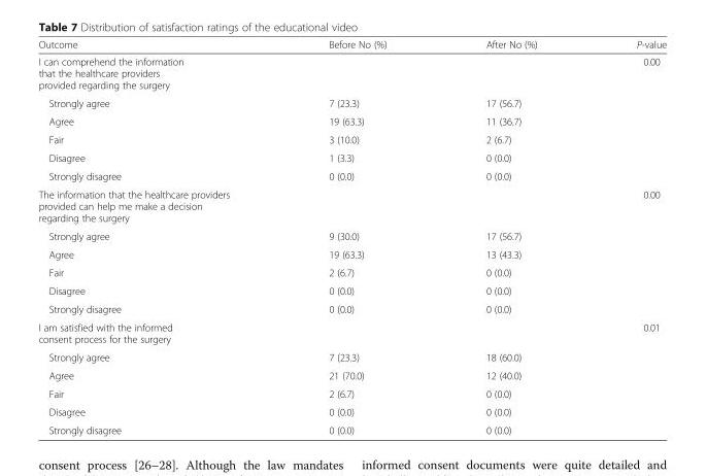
<table><thead><tr><td>Outcome</td><td>Before No (%)</td><td>After No (%)</td><td>P-value</td></tr></thead><tbody><tr><td>I can comprehend the information that the healthcare providers provided regarding the surgery</td><td></td><td></td><td>0.00</td></tr><tr><td>Strongly agree</td><td>7 (23.3)</td><td>17 (56.7)</td><td></td></tr><tr><td>Agree</td><td>19 (63.3)</td><td>11 (36.7)</td><td></td></tr><tr><td>Fair</td><td>3 (10.0)</td><td>2 (6.7)</td><td></td></tr><tr><td>Disagree</td><td>1 (3.3)</td><td>0 (0.0)</td><td></td></tr><tr><td>Strongly disagree</td><td>0 (0.0)</td><td>0 (0.0)</td><td></td></tr><tr><td>The information that the healthcare providers provided can help me make a decision regarding the surgery</td><td></td><td></td><td>0.00</td></tr><tr><td>Strongly agree</td><td>9 (30.0)</td><td>17 (56.7)</td><td></td></tr><tr><td>Agree</td><td>19 (63.3)</td><td>13 (43.3)</td><td></td></tr><tr><td>Fair</td><td>2 (6.7)</td><td>0 (0.0)</td><td></td></tr><tr><td>Disagree</td><td>0 (0.0)</td><td>0 (0.0)</td><td></td></tr><tr><td>Strongly disagree</td><td>0 (0.0)</td><td>0 (0.0)</td><td></td></tr><tr><td>I am satisfied with the informed consent process for the surgery</td><td></td><td></td><td>0.01</td></tr><tr><td>Strongly agree</td><td>7 (23.3)</td><td>18 (60.0)</td><td></td></tr><tr><td>Agree</td><td>21 (70.0)</td><td>12 (40.0)</td><td></td></tr><tr><td>Fair</td><td>2 (6.7)</td><td>0 (0.0)</td><td></td></tr><tr><td>Disagree</td><td>0 (0.0)</td><td>0 (0.0)</td><td></td></tr><tr><td>Strongly disagree</td><td>0 (0.0)</td><td>0 (0.0)</td><td></td></tr></tbody></table>